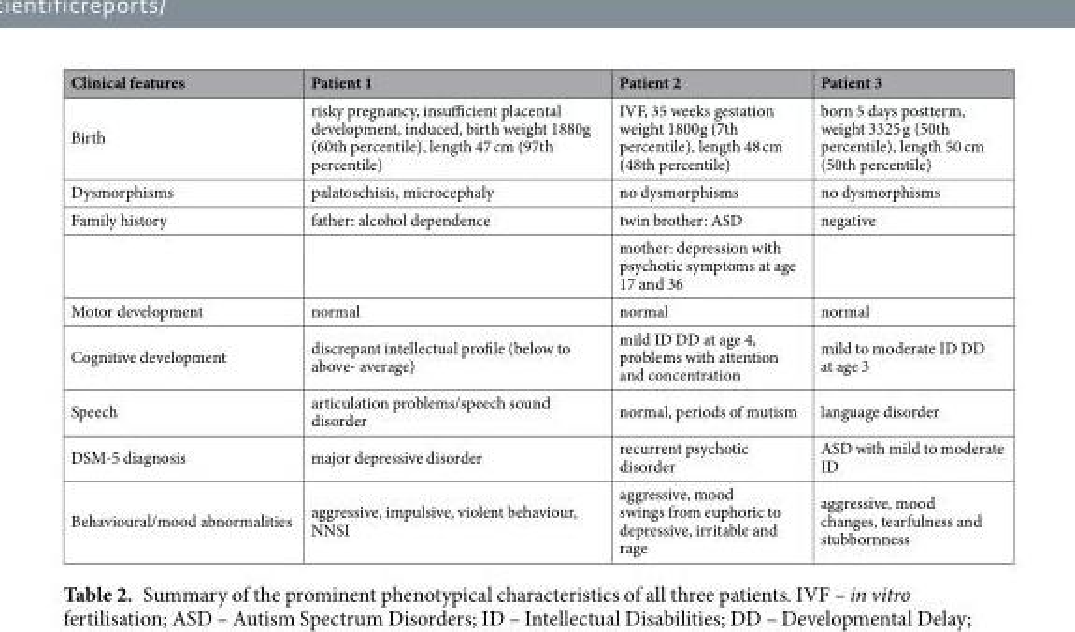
<table><thead><tr><td>Clinical features</td><td>Patient 1</td><td>Patient 2</td><td>Patient 3</td></tr></thead><tbody><tr><td>Birth</td><td>risky pregnancy, insufficient placental development, induced, birth weight 1880g (60th percentile), length 47 cm (97th percentile)</td><td>IVF, 35 weeks gestation weight 1800g (7th percentile), length 48 cm (48th percentile)</td><td>born 5 days postterm, weight 3325 g (50th percentile), length 50 cm (50th percentile)</td></tr><tr><td>Dysmorphisms</td><td>palatoschisis, microcephaly</td><td>no dysmorphisms</td><td>no dysmorphisms</td></tr><tr><td rowspan="2">Family history</td><td>father: alcohol dependence</td><td>twin brother: ASD</td><td>negative</td></tr><tr><td></td><td>mother: depression with psychotic symptoms at age 17 and 36</td><td></td></tr><tr><td>Motor development</td><td>normal</td><td>normal</td><td>normal</td></tr><tr><td>Cognitive development</td><td>discrepant intellectual profile (below to above- average)</td><td>mild ID DD at age 4, problems with attention and concentration</td><td>mild to moderate ID DD at age 3</td></tr><tr><td>Speech</td><td>articulation problems/speech sound disorder</td><td>normal, periods of mutism</td><td>language disorder</td></tr><tr><td>DSM-5 diagnosis</td><td>major depressive disorder</td><td>recurrent psychotic disorder</td><td>ASD with mild to moderate ID</td></tr><tr><td>Behavioural/mood abnormalities</td><td>aggressive, impulsive, violent behaviour, NNSI</td><td>aggressive, mood swings from euphoric to depressive, irritable and rage</td><td>aggressive, mood changes, tearfulness and stubbornness</td></tr></tbody></table>